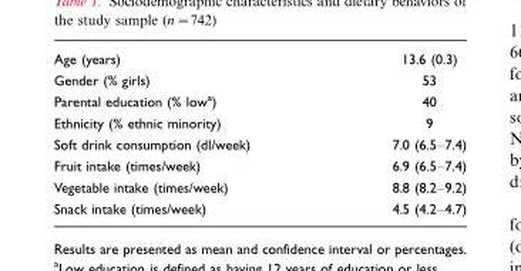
<table><tbody><tr><td>Age (years)</td><td>13.6 (0.3)</td></tr><tr><td>Gender (% girls)</td><td>53</td></tr><tr><td>Parental education (% low<sup>a</sup>)</td><td>40</td></tr><tr><td>Ethnicity (% ethnic minority)</td><td>9</td></tr><tr><td>Soft drink consumption (dl/week)</td><td>7.0 (6.5–7.4)</td></tr><tr><td>Fruit intake (times/week)</td><td>6.9 (6.5–7.4)</td></tr><tr><td>Vegetable intake (times/week)</td><td>8.8 (8.2–9.2)</td></tr><tr><td>Snack intake (times/week)</td><td>4.5 (4.2–4.7)</td></tr></tbody></table>